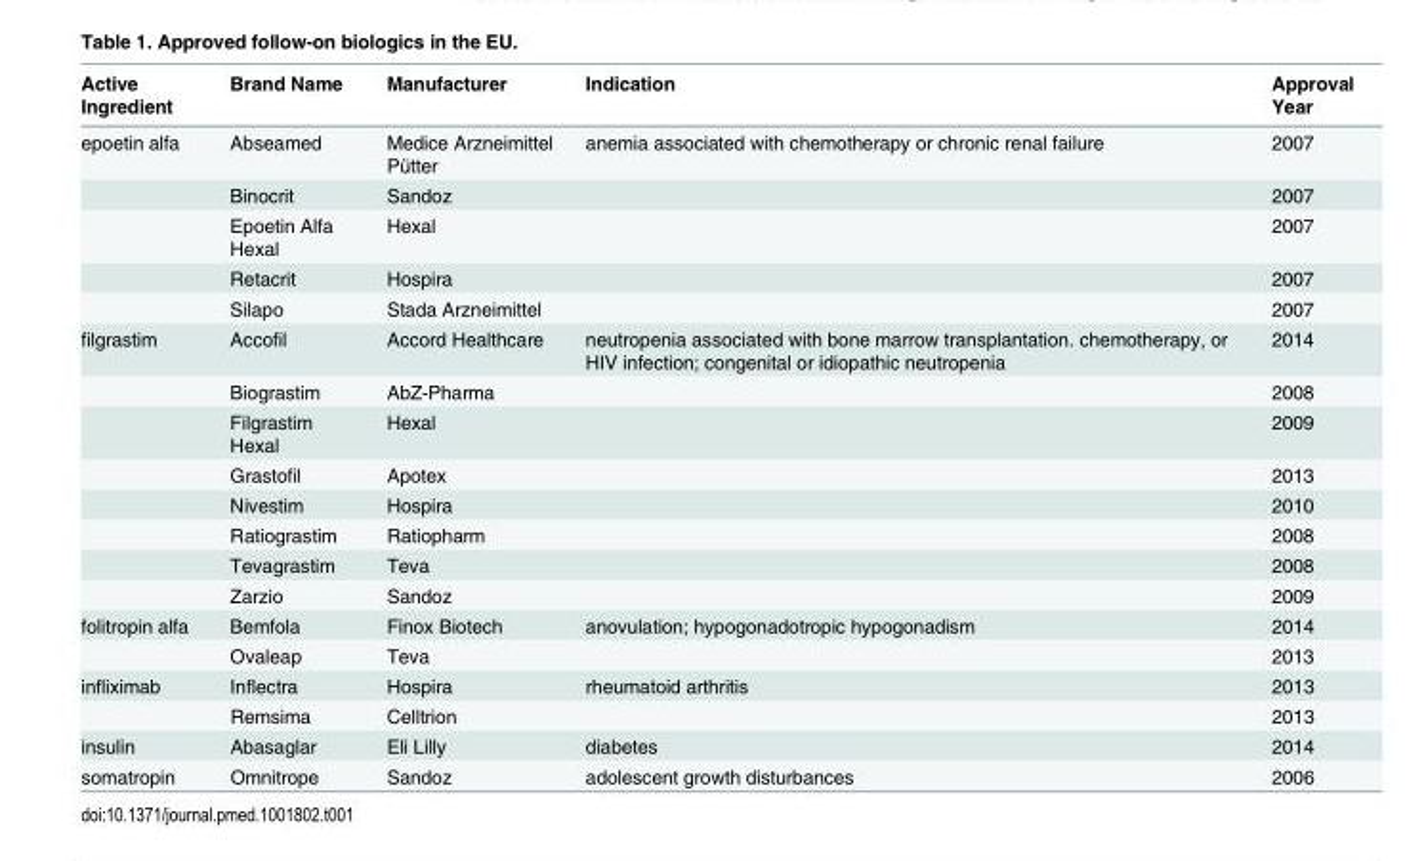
<table><thead><tr><td>Active Ingredient</td><td>Brand Name</td><td>Manufacturer</td><td>Indication</td><td>Approval Year</td></tr></thead><tbody><tr><td rowspan="5">epoetin alfa</td><td>Abseamed</td><td>Medice Arzneimittel Pütter</td><td>anemia associated with chemotherapy or chronic renal failure</td><td>2007</td></tr><tr><td>Binocrit</td><td>Sandoz</td><td></td><td>2007</td></tr><tr><td>Epoetin Alfa Hexal</td><td>Hexal</td><td></td><td>2007</td></tr><tr><td>Retacrit</td><td>Hospira</td><td></td><td>2007</td></tr><tr><td>Silapo</td><td>Stada Arzneimittel</td><td></td><td>2007</td></tr><tr><td rowspan="8">filgrastim</td><td>Accofil</td><td>Accord Healthcare</td><td>neutropenia associated with bone marrow transplantation. chemotherapy, or HIV infection; congenital or idiopathic neutropenia</td><td>2014</td></tr><tr><td>Biograstim</td><td>AbZ-Pharma</td><td></td><td>2008</td></tr><tr><td>Filgrastim Hexal</td><td>Hexal</td><td></td><td>2009</td></tr><tr><td>Grastofil</td><td>Apotex</td><td></td><td>2013</td></tr><tr><td>Nivestim</td><td>Hospira</td><td></td><td>2010</td></tr><tr><td>Ratiograstim</td><td>Ratiopharm</td><td></td><td>2008</td></tr><tr><td>Tevagrastim</td><td>Teva</td><td></td><td>2008</td></tr><tr><td>Zarzio</td><td>Sandoz</td><td></td><td>2009</td></tr><tr><td rowspan="2">folitropin alfa</td><td>Bemfola</td><td>Finox Biotech</td><td>anovulation; hypogonadotropic hypogonadism</td><td>2014</td></tr><tr><td>Ovaleap</td><td>Teva</td><td></td><td>2013</td></tr><tr><td rowspan="2">infliximab</td><td>Inflectra</td><td>Hospira</td><td>rheumatoid arthritis</td><td>2013</td></tr><tr><td>Remsima</td><td>Celltrion</td><td></td><td>2013</td></tr><tr><td>insulin</td><td>Abasaglar</td><td>Eli Lilly</td><td>diabetes</td><td>2014</td></tr><tr><td>somatropin</td><td>Omnitrope</td><td>Sandoz</td><td>adolescent growth disturbances</td><td>2006</td></tr></tbody></table>